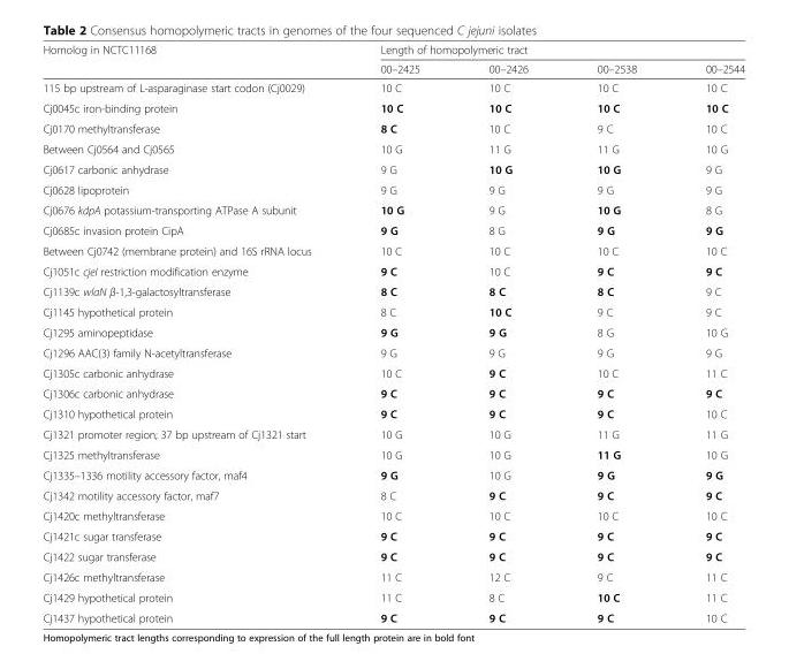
<table><thead><tr><td rowspan="2">Homolog in NCTC11168</td><td colspan="4">Length of homopolymeric tract</td></tr><tr><td>00–2425</td><td>00–2426</td><td>00–2538</td><td>00–2544</td></tr></thead><tbody><tr><td>115 bp upstream of L-asparaginase start codon (Cj0029)</td><td>10 C</td><td>10 C</td><td>10 C</td><td>10 C</td></tr><tr><td>Cj0045c iron-binding protein</td><td>10 C</td><td>10 C</td><td>10 C</td><td>10 C</td></tr><tr><td>Cj0170 methyltransferase</td><td>8 C</td><td>10 C</td><td>9 C</td><td>10 C</td></tr><tr><td>Between Cj0564 and Cj0565</td><td>10 G</td><td>11 G</td><td>11 G</td><td>10 G</td></tr><tr><td>Cj0617 carbonic anhydrase</td><td>9 G</td><td>10 G</td><td>10 G</td><td>9 G</td></tr><tr><td>Cj0628 lipoprotein</td><td>9 G</td><td>9 G</td><td>9 G</td><td>9 G</td></tr><tr><td>Cj0676 kdpA potassium-transporting ATPase A subunit</td><td>10 G</td><td>9 G</td><td>10 G</td><td>8 G</td></tr><tr><td>Cj0685c invasion protein CipA</td><td>9 G</td><td>8 G</td><td>9 G</td><td>9 G</td></tr><tr><td>Between Cj0742 (membrane protein) and 16S rRNA locus</td><td>10 C</td><td>10 C</td><td>10 C</td><td>10 C</td></tr><tr><td>Cj1051c cjeI restriction modification enzyme</td><td>9 C</td><td>10 C</td><td>9 C</td><td>9 C</td></tr><tr><td>Cj1139c wlaN β-1,3-galactosyltransferase</td><td>8 C</td><td>8 C</td><td>8 C</td><td>9 C</td></tr><tr><td>Cj1145 hypothetical protein</td><td>8 C</td><td>10 C</td><td>9 C</td><td>9 C</td></tr><tr><td>Cj1295 aminopeptidase</td><td>9 G</td><td>9 G</td><td>8 G</td><td>10 G</td></tr><tr><td>Cj1296 AAC(3) family N-acetyltransferase</td><td>9 G</td><td>9 G</td><td>9 G</td><td>9 G</td></tr><tr><td>Cj1305c carbonic anhydrase</td><td>10 C</td><td>9 C</td><td>10 C</td><td>11 C</td></tr><tr><td>Cj1306c carbonic anhydrase</td><td>9 C</td><td>9 C</td><td>9 C</td><td>9 C</td></tr><tr><td>Cj1310 hypothetical protein</td><td>9 C</td><td>9 C</td><td>9 C</td><td>10 C</td></tr><tr><td>Cj1321 promoter region; 37 bp upstream of Cj1321 start</td><td>10 G</td><td>10 G</td><td>11 G</td><td>11 G</td></tr><tr><td>Cj1325 methyltransferase</td><td>10 G</td><td>10 G</td><td>11 G</td><td>10 G</td></tr><tr><td>Cj1335–1336 motility accessory factor, maf4</td><td>9 G</td><td>10 G</td><td>9 G</td><td>9 G</td></tr><tr><td>Cj1342 motility accessory factor, maf7</td><td>8 C</td><td>9 C</td><td>9 C</td><td>9 C</td></tr><tr><td>Cj1420c methyltransferase</td><td>10 C</td><td>10 C</td><td>10 C</td><td>10 C</td></tr><tr><td>Cj1421c sugar transferase</td><td>9 C</td><td>9 C</td><td>9 C</td><td>9 C</td></tr><tr><td>Cj1422 sugar transferase</td><td>9 C</td><td>9 C</td><td>9 C</td><td>9 C</td></tr><tr><td>Cj1426c methyltransferase</td><td>11 C</td><td>12 C</td><td>9 C</td><td>11 C</td></tr><tr><td>Cj1429 hypothetical protein</td><td>11 C</td><td>8 C</td><td>10 C</td><td>11 C</td></tr><tr><td>Cj1437 hypothetical protein</td><td>9 C</td><td>9 C</td><td>9 C</td><td>10 C</td></tr></tbody></table>